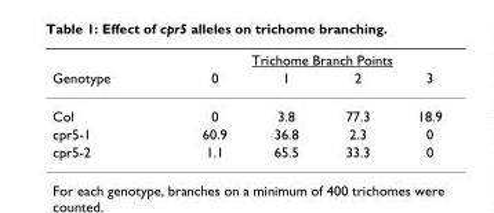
<table><thead><tr><td rowspan="2">Genotype</td><td colspan="4">Trichome Branch Points</td></tr><tr><td>0</td><td>1</td><td>2</td><td>3</td></tr></thead><tbody><tr><td>Col</td><td>0</td><td>3.8</td><td>77.3</td><td>18.9</td></tr><tr><td>cpr5-1</td><td>60.9</td><td>36.8</td><td>2.3</td><td>0</td></tr><tr><td>cpr5-2</td><td>1.1</td><td>65.5</td><td>33.3</td><td>0</td></tr></tbody></table>